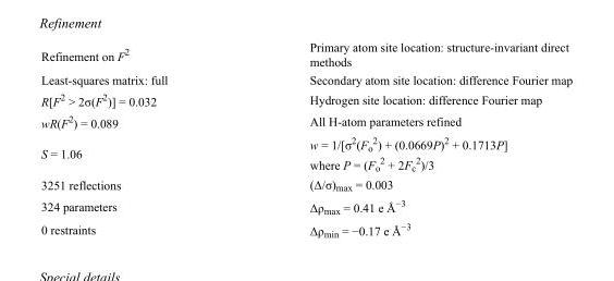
<table><tbody><tr><td>Refinement on F<sup>2</sup></td><td>Primary atom site location: structure-invariant direct methods</td></tr><tr><td>Least-squares matrix: full</td><td>Secondary atom site location: difference Fourier map</td></tr><tr><td>R[F<sup>2</sup> &gt; 2σ(F<sup>2</sup>)] = 0.032</td><td>Hydrogen site location: difference Fourier map</td></tr><tr><td>wR(F<sup>2</sup>) = 0.089</td><td>All H-atom parameters refined</td></tr><tr><td>S = 1.06</td><td>w = 1/[σ<sup>2</sup>(F<sub>o</sub> <sup>2</sup>) + (0.0669P)<sup>2</sup> + 0.1713P] where P = (F<sub>o</sub> <sup>2</sup> + 2F<sub>c</sub> <sup>2</sup>)/3</td></tr><tr><td>3251 reflections</td><td>(Δ/σ)<sub>max</sub> = 0.003</td></tr><tr><td>324 parameters</td><td>Δρ<sub>max</sub> = 0.41 e Å<sup>−3</sup></td></tr><tr><td>0 restraints</td><td>Δρ<sub>min</sub> = −0.17 e Å<sup>−3</sup></td></tr></tbody></table>